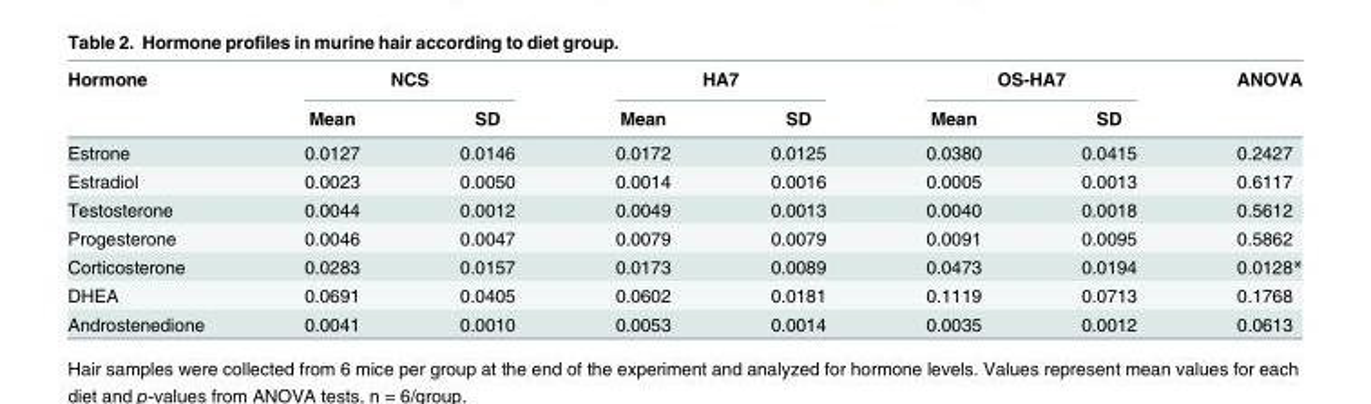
<table><thead><tr><td rowspan="2">Hormone</td><td colspan="2">NCS</td><td colspan="2">HA7</td><td colspan="2">OS-HA7</td><td rowspan="2">ANOVA</td></tr><tr><td>Mean</td><td>SD</td><td>Mean</td><td>SD</td><td>Mean</td><td>SD</td></tr></thead><tbody><tr><td>Estrone</td><td>0.0127</td><td>0.0146</td><td>0.0172</td><td>0.0125</td><td>0.0380</td><td>0.0415</td><td>0.2427</td></tr><tr><td>Estradiol</td><td>0.0023</td><td>0.0050</td><td>0.0014</td><td>0.0016</td><td>0.0005</td><td>0.0013</td><td>0.6117</td></tr><tr><td>Testosterone</td><td>0.0044</td><td>0.0012</td><td>0.0049</td><td>0.0013</td><td>0.0040</td><td>0.0018</td><td>0.5612</td></tr><tr><td>Progesterone</td><td>0.0046</td><td>0.0047</td><td>0.0079</td><td>0.0079</td><td>0.0091</td><td>0.0095</td><td>0.5862</td></tr><tr><td>Corticosterone</td><td>0.0283</td><td>0.0157</td><td>0.0173</td><td>0.0089</td><td>0.0473</td><td>0.0194</td><td>0.0128*</td></tr><tr><td>DHEA</td><td>0.0691</td><td>0.0405</td><td>0.0602</td><td>0.0181</td><td>0.1119</td><td>0.0713</td><td>0.1768</td></tr><tr><td>Androstenedione</td><td>0.0041</td><td>0.0010</td><td>0.0053</td><td>0.0014</td><td>0.0035</td><td>0.0012</td><td>0.0613</td></tr></tbody></table>